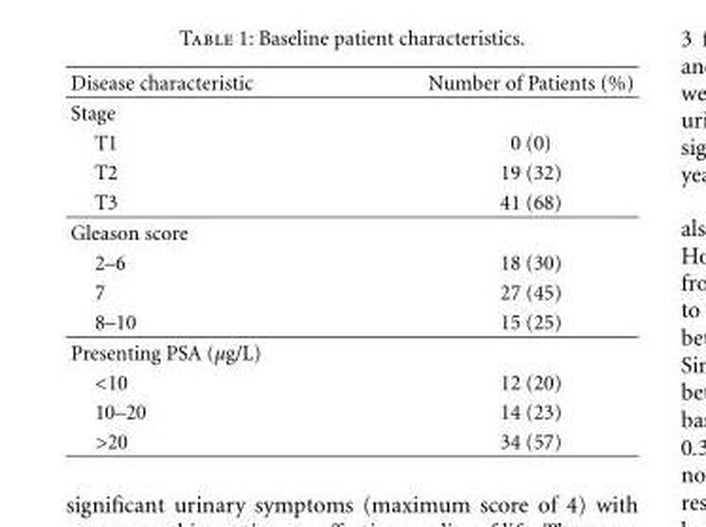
<table><thead><tr><td>Disease characteristic</td><td>Number of Patients (%)</td></tr></thead><tbody><tr><td colspan="2">Stage</td></tr><tr><td>T1</td><td>0 (0)</td></tr><tr><td>T2</td><td>19 (32)</td></tr><tr><td>T3</td><td>41 (68)</td></tr><tr><td colspan="2">Gleason score</td></tr><tr><td>2–6</td><td>18 (30)</td></tr><tr><td>7</td><td>27 (45)</td></tr><tr><td>8–10</td><td>15 (25)</td></tr><tr><td colspan="2">Presenting PSA (μg/L)</td></tr><tr><td>&lt;10</td><td>12 (20)</td></tr><tr><td>10–20</td><td>14 (23)</td></tr><tr><td>&gt;20</td><td>34 (57)</td></tr></tbody></table>